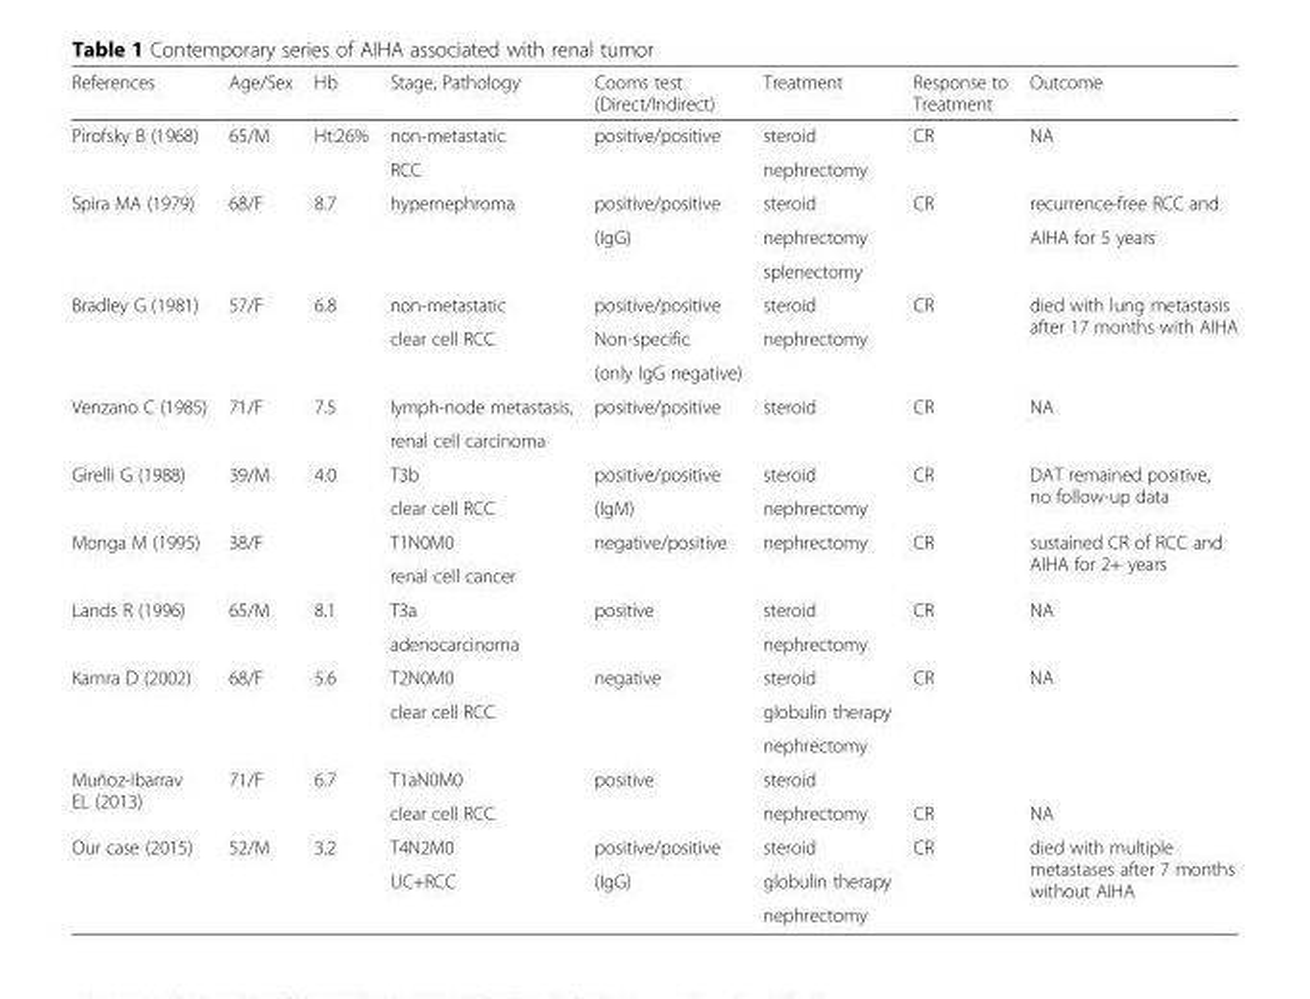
<table><thead><tr><td>References</td><td>Age/Sex</td><td>Hb</td><td>Stage, Pathology</td><td>Cooms test (Direct/Indirect)</td><td>Treatment</td><td>Response to Treatment</td><td>Outcome</td></tr></thead><tbody><tr><td rowspan="2">Pirofsky B (1968)</td><td>65/M</td><td>Ht:26%</td><td>non-metastatic</td><td>positive/positive</td><td>steroid</td><td>CR</td><td>NA</td></tr><tr><td></td><td></td><td>RCC</td><td></td><td>nephrectomy</td><td></td><td></td></tr><tr><td rowspan="3">Spira MA (1979)</td><td>68/F</td><td>8.7</td><td>hypernephroma</td><td>positive/positive</td><td>steroid</td><td>CR</td><td>recurrence-free RCC and</td></tr><tr><td></td><td></td><td></td><td>(IgG)</td><td>nephrectomy</td><td></td><td>AIHA for 5 years</td></tr><tr><td></td><td></td><td></td><td></td><td>splenectomy</td><td></td><td></td></tr><tr><td rowspan="3">Bradley G (1981)</td><td>57/F</td><td>6.8</td><td>non-metastatic</td><td>positive/positive</td><td>steroid</td><td>CR</td><td rowspan="3">died with lung metastasis after 17 months with AIHA</td></tr><tr><td></td><td></td><td>clear cell RCC</td><td>Non-specific</td><td>nephrectomy</td><td></td></tr><tr><td></td><td></td><td></td><td>(only IgG negative)</td><td></td><td></td></tr><tr><td rowspan="2">Venzano C (1985)</td><td>71/F</td><td>7.5</td><td>lymph-node metastasis,</td><td>positive/positive</td><td>steroid</td><td>CR</td><td>NA</td></tr><tr><td></td><td></td><td>renal cell carcinoma</td><td></td><td></td><td></td><td></td></tr><tr><td rowspan="2">Girelli G (1988)</td><td>39/M</td><td>4.0</td><td>T3b</td><td>positive/positive</td><td>steroid</td><td>CR</td><td rowspan="2">DAT remained positive, no follow-up data</td></tr><tr><td></td><td></td><td>clear cell RCC</td><td>(IgM)</td><td>nephrectomy</td><td></td></tr><tr><td rowspan="2">Monga M (1995)</td><td>38/F</td><td></td><td>T1N0M0</td><td>negative/positive</td><td>nephrectomy</td><td>CR</td><td rowspan="2">sustained CR of RCC and AIHA for 2+ years</td></tr><tr><td></td><td></td><td>renal cell cancer</td><td></td><td></td><td></td></tr><tr><td rowspan="2">Lands R (1996)</td><td>65/M</td><td>8.1</td><td>T3a</td><td>positive</td><td>steroid</td><td>CR</td><td>NA</td></tr><tr><td></td><td></td><td>adenocarcinoma</td><td></td><td>nephrectomy</td><td></td><td></td></tr><tr><td rowspan="3">Kamra D (2002)</td><td>68/F</td><td>5.6</td><td>T2N0M0</td><td>negative</td><td>steroid</td><td>CR</td><td>NA</td></tr><tr><td></td><td></td><td>clear cell RCC</td><td></td><td>globulin therapy</td><td></td><td></td></tr><tr><td></td><td></td><td></td><td></td><td>nephrectomy</td><td></td><td></td></tr><tr><td rowspan="2">Muñoz-Ibarrav EL (2013)</td><td>71/F</td><td>6.7</td><td>T1aN0M0</td><td>positive</td><td>steroid</td><td></td><td></td></tr><tr><td></td><td></td><td>clear cell RCC</td><td></td><td>nephrectomy</td><td>CR</td><td>NA</td></tr><tr><td rowspan="3">Our case (2015)</td><td>52/M</td><td>3.2</td><td>T4N2M0</td><td>positive/positive</td><td>steroid</td><td>CR</td><td rowspan="3">died with multiple metastases after 7 months without AIHA</td></tr><tr><td></td><td></td><td>UC+RCC</td><td>(IgG)</td><td>globulin therapy</td><td></td></tr><tr><td></td><td></td><td></td><td></td><td>nephrectomy</td><td></td></tr></tbody></table>